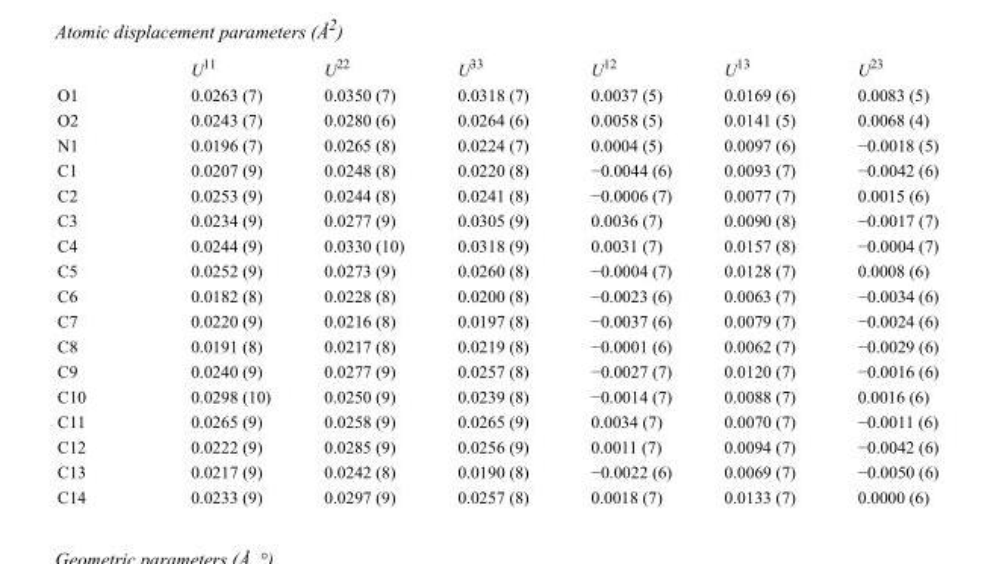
<table><thead><tr><td></td><td>U<sup>11</sup></td><td>U<sup>22</sup></td><td>U<sup>33</sup></td><td>U<sup>12</sup></td><td>U<sup>13</sup></td><td>U<sup>23</sup></td></tr></thead><tbody><tr><td>O1</td><td>0.0263 (7)</td><td>0.0350 (7)</td><td>0.0318 (7)</td><td>0.0037 (5)</td><td>0.0169 (6)</td><td>0.0083 (5)</td></tr><tr><td>O2</td><td>0.0243 (7)</td><td>0.0280 (6)</td><td>0.0264 (6)</td><td>0.0058 (5)</td><td>0.0141 (5)</td><td>0.0068 (4)</td></tr><tr><td>N1</td><td>0.0196 (7)</td><td>0.0265 (8)</td><td>0.0224 (7)</td><td>0.0004 (5)</td><td>0.0097 (6)</td><td>−0.0018 (5)</td></tr><tr><td>C1</td><td>0.0207 (9)</td><td>0.0248 (8)</td><td>0.0220 (8)</td><td>−0.0044 (6)</td><td>0.0093 (7)</td><td>−0.0042 (6)</td></tr><tr><td>C2</td><td>0.0253 (9)</td><td>0.0244 (8)</td><td>0.0241 (8)</td><td>−0.0006 (7)</td><td>0.0077 (7)</td><td>0.0015 (6)</td></tr><tr><td>C3</td><td>0.0234 (9)</td><td>0.0277 (9)</td><td>0.0305 (9)</td><td>0.0036 (7)</td><td>0.0090 (8)</td><td>−0.0017 (7)</td></tr><tr><td>C4</td><td>0.0244 (9)</td><td>0.0330 (10)</td><td>0.0318 (9)</td><td>0.0031 (7)</td><td>0.0157 (8)</td><td>−0.0004 (7)</td></tr><tr><td>C5</td><td>0.0252 (9)</td><td>0.0273 (9)</td><td>0.0260 (8)</td><td>−0.0004 (7)</td><td>0.0128 (7)</td><td>0.0008 (6)</td></tr><tr><td>C6</td><td>0.0182 (8)</td><td>0.0228 (8)</td><td>0.0200 (8)</td><td>−0.0023 (6)</td><td>0.0063 (7)</td><td>−0.0034 (6)</td></tr><tr><td>C7</td><td>0.0220 (9)</td><td>0.0216 (8)</td><td>0.0197 (8)</td><td>−0.0037 (6)</td><td>0.0079 (7)</td><td>−0.0024 (6)</td></tr><tr><td>C8</td><td>0.0191 (8)</td><td>0.0217 (8)</td><td>0.0219 (8)</td><td>−0.0001 (6)</td><td>0.0062 (7)</td><td>−0.0029 (6)</td></tr><tr><td>C9</td><td>0.0240 (9)</td><td>0.0277 (9)</td><td>0.0257 (8)</td><td>−0.0027 (7)</td><td>0.0120 (7)</td><td>−0.0016 (6)</td></tr><tr><td>C10</td><td>0.0298 (10)</td><td>0.0250 (9)</td><td>0.0239 (8)</td><td>−0.0014 (7)</td><td>0.0088 (7)</td><td>0.0016 (6)</td></tr><tr><td>C11</td><td>0.0265 (9)</td><td>0.0258 (9)</td><td>0.0265 (9)</td><td>0.0034 (7)</td><td>0.0070 (7)</td><td>−0.0011 (6)</td></tr><tr><td>C12</td><td>0.0222 (9)</td><td>0.0285 (9)</td><td>0.0256 (9)</td><td>0.0011 (7)</td><td>0.0094 (7)</td><td>−0.0042 (6)</td></tr><tr><td>C13</td><td>0.0217 (9)</td><td>0.0242 (8)</td><td>0.0190 (8)</td><td>−0.0022 (6)</td><td>0.0069 (7)</td><td>−0.0050 (6)</td></tr><tr><td>C14</td><td>0.0233 (9)</td><td>0.0297 (9)</td><td>0.0257 (8)</td><td>0.0018 (7)</td><td>0.0133 (7)</td><td>0.0000 (6)</td></tr></tbody></table>